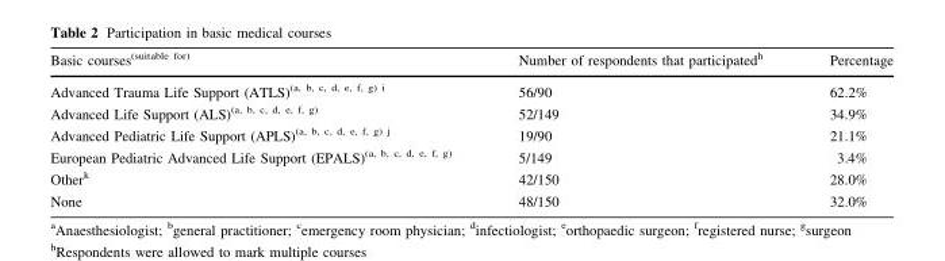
<table><thead><tr><td>Basic courses<sup>(suitable for)</sup></td><td>Number of respondents that participated<sup>h</sup></td><td>Percentage</td></tr></thead><tbody><tr><td>Advanced Trauma Life Support (ATLS)<sup>(a, b, c, d, e, f, g) i</sup></td><td>56/90</td><td>62.2%</td></tr><tr><td>Advanced Life Support (ALS)<sup>(a, b, c, d, e, f, g)</sup></td><td>52/149</td><td>34.9%</td></tr><tr><td>Advanced Pediatric Life Support (APLS)<sup>(a, b, c, d, e, f, g) j</sup></td><td>19/90</td><td>21.1%</td></tr><tr><td>European Pediatric Advanced Life Support (EPALS)<sup>(a, b, c, d, e, f, g)</sup></td><td>5/149</td><td>3.4%</td></tr><tr><td>Other<sup>k</sup></td><td>42/150</td><td>28.0%</td></tr><tr><td>None</td><td>48/150</td><td>32.0%</td></tr></tbody></table>